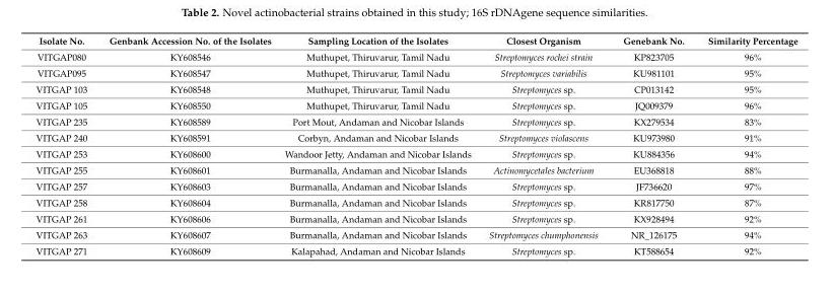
<table><thead><tr><td>Isolate No.</td><td>Genbank Accession No. of the Isolates</td><td>Sampling Location of the Isolates</td><td>Closest Organism</td><td>Genebank No.</td><td>Similarity Percentage</td></tr></thead><tbody><tr><td>VITGAP080</td><td>KY608546</td><td>Muthupet, Thiruvarur, Tamil Nadu</td><td>Streptomyces rochei strain</td><td>KP823705</td><td>96%</td></tr><tr><td>VITGAP095</td><td>KY608547</td><td>Muthupet, Thiruvarur, Tamil Nadu</td><td>Streptomyces variabilis</td><td>KU981101</td><td>95%</td></tr><tr><td>VITGAP 103</td><td>KY608548</td><td>Muthupet, Thiruvarur, Tamil Nadu</td><td>Streptomyces sp.</td><td>CP013142</td><td>95%</td></tr><tr><td>VITGAP 105</td><td>KY608550</td><td>Muthupet, Thiruvarur, Tamil Nadu</td><td>Streptomyces sp.</td><td>JQ009379</td><td>96%</td></tr><tr><td>VITGAP 235</td><td>KY608589</td><td>Port Mout, Andaman and Nicobar Islands</td><td>Streptomyces sp.</td><td>KX279534</td><td>83%</td></tr><tr><td>VITGAP 240</td><td>KY608591</td><td>Corbyn, Andaman and Nicobar Islands</td><td>Streptomyces violascens</td><td>KU973980</td><td>91%</td></tr><tr><td>VITGAP 253</td><td>KY608600</td><td>Wandoor Jetty, Andaman and Nicobar Islands</td><td>Streptomyces sp.</td><td>KU884356</td><td>94%</td></tr><tr><td>VITGAP 255</td><td>KY608601</td><td>Burmanalla, Andaman and Nicobar Islands</td><td>Actinomycetales bacterium</td><td>EU368818</td><td>88%</td></tr><tr><td>VITGAP 257</td><td>KY608603</td><td>Burmanalla, Andaman and Nicobar Islands</td><td>Streptomyces sp.</td><td>JF736620</td><td>97%</td></tr><tr><td>VITGAP 258</td><td>KY608604</td><td>Burmanalla, Andaman and Nicobar Islands</td><td>Streptomyces sp.</td><td>KR817750</td><td>87%</td></tr><tr><td>VITGAP 261</td><td>KY608606</td><td>Burmanalla, Andaman and Nicobar Islands</td><td>Streptomyces sp.</td><td>KX928494</td><td>92%</td></tr><tr><td>VITGAP 263</td><td>KY608607</td><td>Burmanalla, Andaman and Nicobar Islands</td><td>Streptomyces chumphonensis</td><td>NR_126175</td><td>94%</td></tr><tr><td>VITGAP 271</td><td>KY608609</td><td>Kalapahad, Andaman and Nicobar Islands</td><td>Streptomyces sp.</td><td>KT588654</td><td>92%</td></tr></tbody></table>